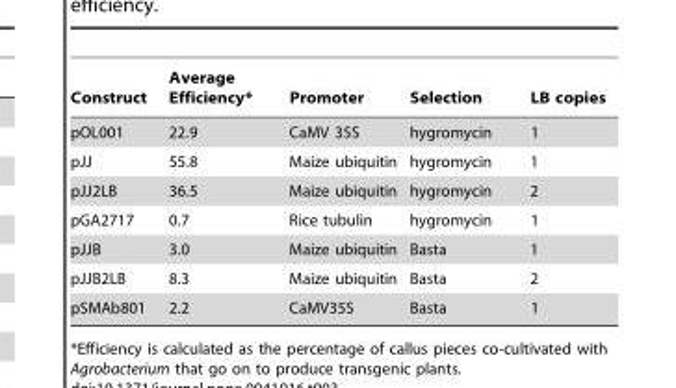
<table><thead><tr><td>Construct</td><td>Average Efficiency*</td><td>Promoter</td><td>Selection</td><td>LB copies</td></tr></thead><tbody><tr><td>pOL001</td><td>22.9</td><td>CaMV 35S</td><td>hygromycin</td><td>1</td></tr><tr><td>pJJ</td><td>55.8</td><td>Maize ubiquitin</td><td>hygromycin</td><td>1</td></tr><tr><td>pJJ2LB</td><td>36.5</td><td>Maize ubiquitin</td><td>hygromycin</td><td>2</td></tr><tr><td>pGA2717</td><td>0.7</td><td>Rice tubulin</td><td>hygromycin</td><td>1</td></tr><tr><td>pJJB</td><td>3.0</td><td>Maize ubiquitin</td><td>Basta</td><td>1</td></tr><tr><td>pJJB2LB</td><td>8.3</td><td>Maize ubiquitin</td><td>Basta</td><td>2</td></tr><tr><td>pSMAb801</td><td>2.2</td><td>CaMV35S</td><td>Basta</td><td>1</td></tr></tbody></table>